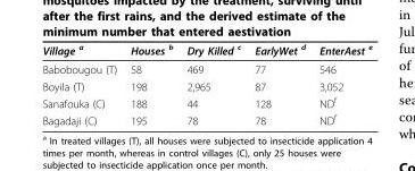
<table><thead><tr><td>Village <sup>a</sup></td><td>Houses <sup>b</sup></td><td>Dry Killed <sup>c</sup></td><td>EarlyWet <sup>d</sup></td><td>EnterAest <sup>e</sup></td></tr></thead><tbody><tr><td>Babobougou (T)</td><td>58</td><td>469</td><td>77</td><td>546</td></tr><tr><td>Boyila (T)</td><td>198</td><td>2,965</td><td>87</td><td>3,052</td></tr><tr><td>Sanafouka (C)</td><td>188</td><td>44</td><td>128</td><td>ND<sup>f</sup></td></tr><tr><td>Bagadaji (C)</td><td>195</td><td>78</td><td>78</td><td>ND<sup>f</sup></td></tr></tbody></table>